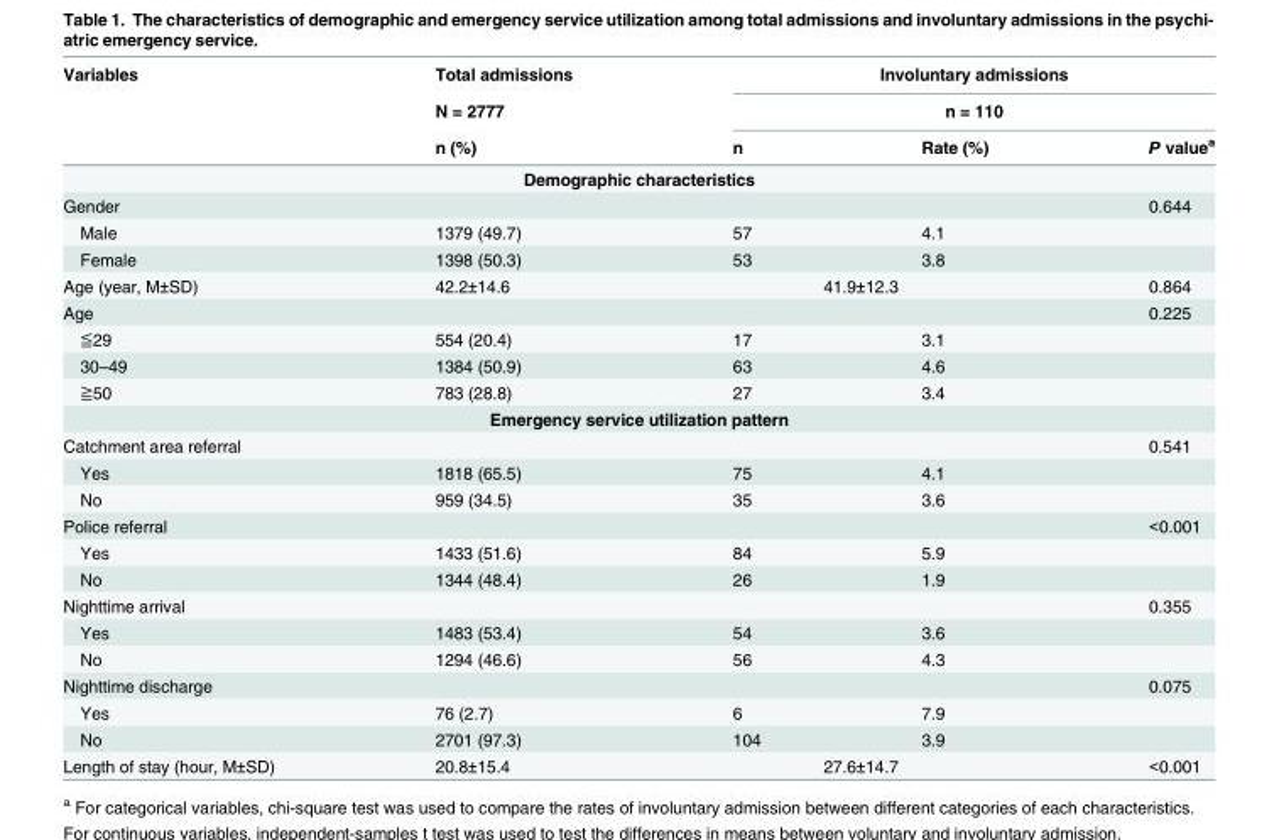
<table><thead><tr><td rowspan="3">Variables</td><td rowspan="3">Total admissions N = 2777 n (%)</td><td rowspan="2" colspan="3">Involuntary admissions n = 110</td></tr><tr></tr><tr><td>n</td><td>Rate (%)</td><td>P value<sup>a</sup></td></tr></thead><tbody><tr><td colspan="5">Demographic characteristics</td></tr><tr><td>Gender</td><td></td><td></td><td></td><td>0.644</td></tr><tr><td>Male</td><td>1379 (49.7)</td><td>57</td><td>4.1</td><td></td></tr><tr><td>Female</td><td>1398 (50.3)</td><td>53</td><td>3.8</td><td></td></tr><tr><td>Age (year, M±SD)</td><td>42.2±14.6</td><td colspan="2">41.9±12.3</td><td>0.864</td></tr><tr><td>Age</td><td></td><td></td><td></td><td>0.225</td></tr><tr><td>≦29</td><td>554 (20.4)</td><td>17</td><td>3.1</td><td></td></tr><tr><td>30–49</td><td>1384 (50.9)</td><td>63</td><td>4.6</td><td></td></tr><tr><td>≧50</td><td>783 (28.8)</td><td>27</td><td>3.4</td><td></td></tr><tr><td colspan="5">Emergency service utilization pattern</td></tr><tr><td>Catchment area referral</td><td></td><td></td><td></td><td>0.541</td></tr><tr><td>Yes</td><td>1818 (65.5)</td><td>75</td><td>4.1</td><td></td></tr><tr><td>No</td><td>959 (34.5)</td><td>35</td><td>3.6</td><td></td></tr><tr><td>Police referral</td><td></td><td></td><td></td><td>&lt;0.001</td></tr><tr><td>Yes</td><td>1433 (51.6)</td><td>84</td><td>5.9</td><td></td></tr><tr><td>No</td><td>1344 (48.4)</td><td>26</td><td>1.9</td><td></td></tr><tr><td>Nighttime arrival</td><td></td><td></td><td></td><td>0.355</td></tr><tr><td>Yes</td><td>1483 (53.4)</td><td>54</td><td>3.6</td><td></td></tr><tr><td>No</td><td>1294 (46.6)</td><td>56</td><td>4.3</td><td></td></tr><tr><td>Nighttime discharge</td><td></td><td></td><td></td><td>0.075</td></tr><tr><td>Yes</td><td>76 (2.7)</td><td>6</td><td>7.9</td><td></td></tr><tr><td>No</td><td>2701 (97.3)</td><td>104</td><td>3.9</td><td></td></tr><tr><td>Length of stay (hour, M±SD)</td><td>20.8±15.4</td><td colspan="2">27.6±14.7</td><td>&lt;0.001</td></tr></tbody></table>